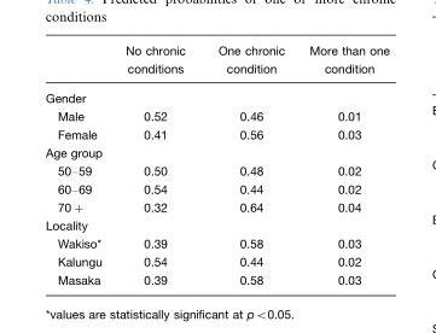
<table><thead><tr><td></td><td>No chronic conditions</td><td>One chronic condition</td><td>More than one condition</td></tr></thead><tbody><tr><td colspan="4">Gender</td></tr><tr><td>Male</td><td>0.52</td><td>0.46</td><td>0.01</td></tr><tr><td>Female</td><td>0.41</td><td>0.56</td><td>0.03</td></tr><tr><td colspan="4">Age group</td></tr><tr><td>50–59</td><td>0.50</td><td>0.48</td><td>0.02</td></tr><tr><td>60–69</td><td>0.54</td><td>0.44</td><td>0.02</td></tr><tr><td>70+</td><td>0.32</td><td>0.64</td><td>0.04</td></tr><tr><td colspan="4">Locality</td></tr><tr><td>Wakiso*</td><td>0.39</td><td>0.58</td><td>0.03</td></tr><tr><td>Kalungu</td><td>0.54</td><td>0.44</td><td>0.02</td></tr><tr><td>Masaka</td><td>0.39</td><td>0.58</td><td>0.03</td></tr></tbody></table>